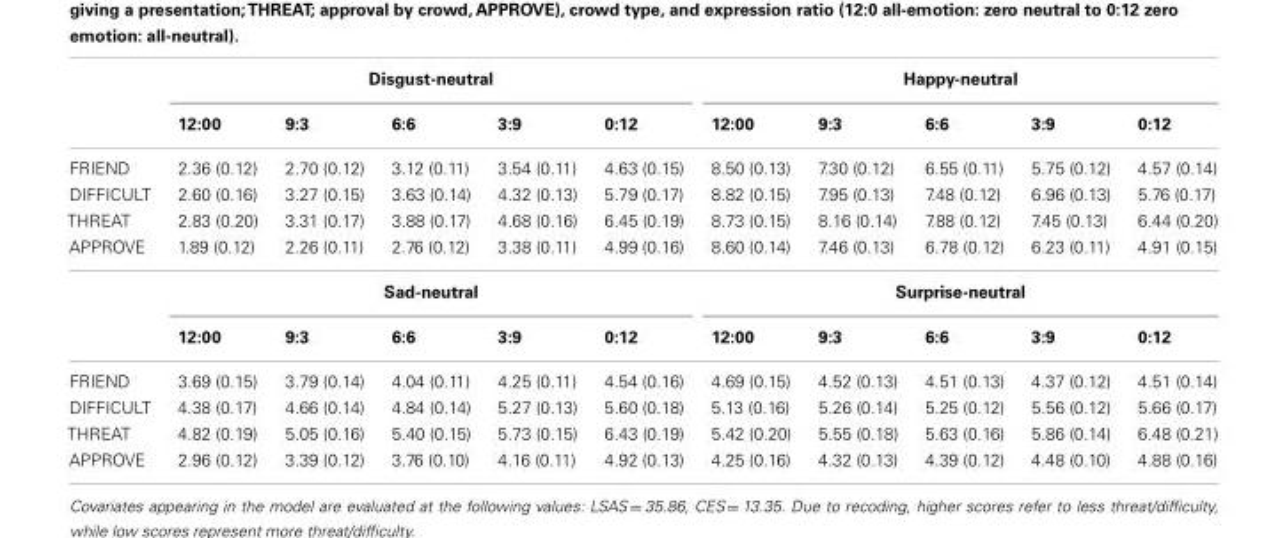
<table><thead><tr><td rowspan="2"></td><td colspan="5">Disgust-neutral</td><td colspan="5">Happy-neutral</td></tr><tr><td>12:00</td><td>9:3</td><td>6:6</td><td>3:9</td><td>0:12</td><td>12:00</td><td>9:3</td><td>6:6</td><td>3:9</td><td>0:12</td></tr></thead><tbody><tr><td>FRIEND</td><td>2.36 (0.12)</td><td>2.70 (0.12)</td><td>3.12 (0.11)</td><td>3.54 (0.11)</td><td>4.63 (0.15)</td><td>8.50 (0.13)</td><td>7.30 (0.12)</td><td>6.55 (0.11)</td><td>5.75 (0.12)</td><td>4.57 (0.14)</td></tr><tr><td>DIFFICULT</td><td>2.60 (0.16)</td><td>3.27 (0.15)</td><td>3.63 (0.14)</td><td>4.32 (0.13)</td><td>5.79 (0.17)</td><td>8.82 (0.15)</td><td>7.95 (0.13)</td><td>7.48 (0.12)</td><td>6.96 (0.13)</td><td>5.76 (0.17)</td></tr><tr><td>THREAT</td><td>2.83 (0.20)</td><td>3.31 (0.17)</td><td>3.88 (0.17)</td><td>4.68 (0.16)</td><td>6.45 (0.19)</td><td>8.73 (0.15)</td><td>8.16 (0.14)</td><td>7.88 (0.12)</td><td>7.45 (0.13)</td><td>6.44 (0.20)</td></tr><tr><td rowspan="3">APPROVE</td><td>1.89 (0.12)</td><td>2.26 (0.11)</td><td>2.76 (0.12)</td><td>3.38 (0.11)</td><td>4.99 (0.16)</td><td>8.60 (0.14)</td><td>7.46 (0.13)</td><td>6.78 (0.12)</td><td>6.23 (0.11)</td><td>4.91 (0.15)</td></tr><tr><td colspan="5">Sad-neutral</td><td colspan="5">Surprise-neutral</td></tr><tr><td>12:00</td><td>9:3</td><td>6:6</td><td>3:9</td><td>0:12</td><td>12:00</td><td>9:3</td><td>6:6</td><td>3:9</td><td>0:12</td></tr><tr><td>FRIEND</td><td>3.69 (0.15)</td><td>3.79 (0.14)</td><td>4.04 (0.11)</td><td>4.25 (0.11)</td><td>4.54 (0.16)</td><td>4.69 (0.15)</td><td>4.52 (0.13)</td><td>4.51 (0.13)</td><td>4.37 (0.12)</td><td>4.51 (0.14)</td></tr><tr><td>DIFFICULT</td><td>4.38 (0.17)</td><td>4.66 (0.14)</td><td>4.84 (0.14)</td><td>5.27 (0.13)</td><td>5.60 (0.18)</td><td>5.13 (0.16)</td><td>5.26 (0.14)</td><td>5.25 (0.12)</td><td>5.56 (0.12)</td><td>5.66 (0.17)</td></tr><tr><td>THREAT</td><td>4.82 (0.19)</td><td>5.05 (0.16)</td><td>5.40 (0.15)</td><td>5.73 (0.15)</td><td>6.43 (0.19)</td><td>5.42 (0.20)</td><td>5.55 (0.18)</td><td>5.63 (0.16)</td><td>5.86 (0.14)</td><td>6.48 (0.21)</td></tr><tr><td>APPROVE</td><td>2.96 (0.12)</td><td>3.39 (0.12)</td><td>3.76 (0.10)</td><td>4.16 (0.11)</td><td>4.92 (0.13)</td><td>4.25 (0.16)</td><td>4.32 (0.13)</td><td>4.39 (0.12)</td><td>4.48 (0.10)</td><td>4.88 (0.16)</td></tr></tbody></table>